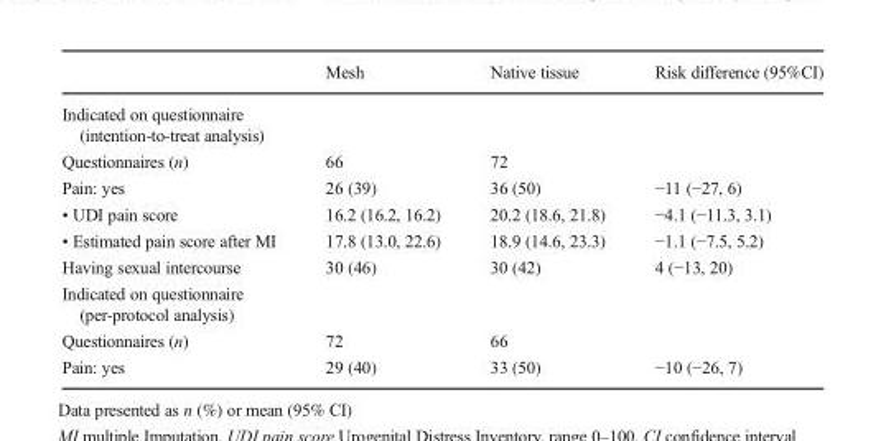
<table><thead><tr><td></td><td>Mesh</td><td>Native tissue</td><td>Risk difference (95%CI)</td></tr></thead><tbody><tr><td colspan="4">Indicated on questionnaire (intention-to-treat analysis)</td></tr><tr><td>Questionnaires (n)</td><td>66</td><td>72</td><td></td></tr><tr><td>Pain: yes</td><td>26 (39)</td><td>36 (50)</td><td>−11 (−27, 6)</td></tr><tr><td>• UDI pain score</td><td>16.2 (16.2, 16.2)</td><td>20.2 (18.6, 21.8)</td><td>−4.1 (−11.3, 3.1)</td></tr><tr><td>• Estimated pain score after MI</td><td>17.8 (13.0, 22.6)</td><td>18.9 (14.6, 23.3)</td><td>−1.1 (−7.5, 5.2)</td></tr><tr><td>Having sexual intercourse</td><td>30 (46)</td><td>30 (42)</td><td>4 (−13, 20)</td></tr><tr><td colspan="4">Indicated on questionnaire (per-protocol analysis)</td></tr><tr><td>Questionnaires (n)</td><td>72</td><td>66</td><td></td></tr><tr><td>Pain: yes</td><td>29 (40)</td><td>33 (50)</td><td>−10 (−26, 7)</td></tr></tbody></table>